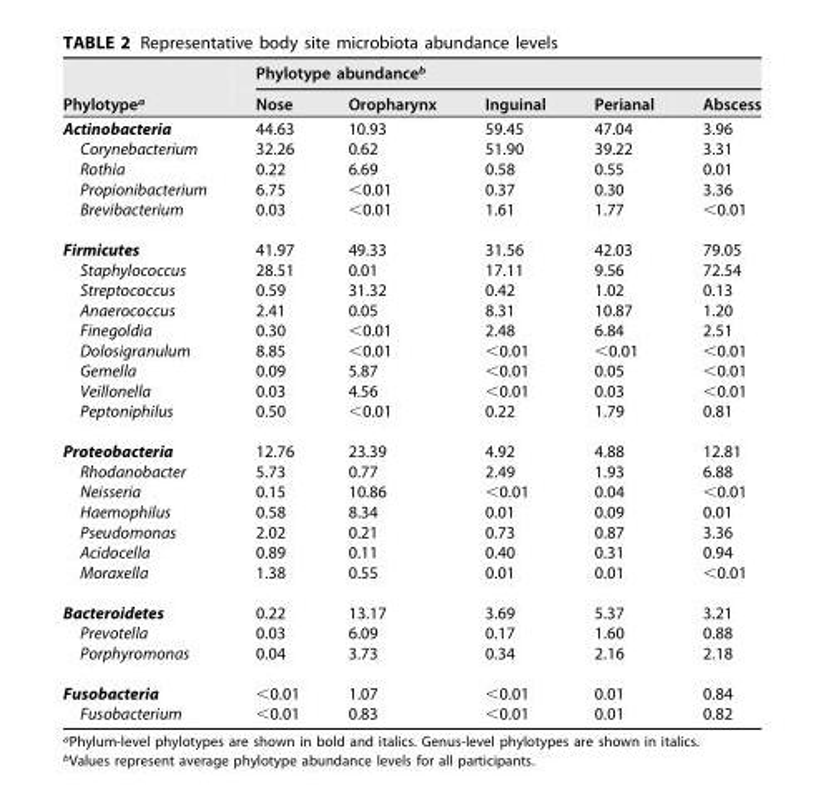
<table><thead><tr><td rowspan="2">Phylotype<sup>a</sup></td><td colspan="5">Phylotype abundance<sup>b</sup></td></tr><tr><td>Nose</td><td>Oropharynx</td><td>Inguinal</td><td>Perianal</td><td>Abscess</td></tr></thead><tbody><tr><td>Actinobacteria</td><td>44.63</td><td>10.93</td><td>59.45</td><td>47.04</td><td>3.96</td></tr><tr><td>Corynebacterium</td><td>32.26</td><td>0.62</td><td>51.90</td><td>39.22</td><td>3.31</td></tr><tr><td>Rothia</td><td>0.22</td><td>6.69</td><td>0.58</td><td>0.55</td><td>0.01</td></tr><tr><td>Propionibacterium</td><td>6.75</td><td>&lt;0.01</td><td>0.37</td><td>0.30</td><td>3.36</td></tr><tr><td>Brevibacterium</td><td>0.03</td><td>&lt;0.01</td><td>1.61</td><td>1.77</td><td>&lt;0.01</td></tr><tr><td>Firmicutes</td><td>41.97</td><td>49.33</td><td>31.56</td><td>42.03</td><td>79.05</td></tr><tr><td>Staphylococcus</td><td>28.51</td><td>0.01</td><td>17.11</td><td>9.56</td><td>72.54</td></tr><tr><td>Streptococcus</td><td>0.59</td><td>31.32</td><td>0.42</td><td>1.02</td><td>0.13</td></tr><tr><td>Anaerococcus</td><td>2.41</td><td>0.05</td><td>8.31</td><td>10.87</td><td>1.20</td></tr><tr><td>Finegoldia</td><td>0.30</td><td>&lt;0.01</td><td>2.48</td><td>6.84</td><td>2.51</td></tr><tr><td>Dolosigranulum</td><td>8.85</td><td>&lt;0.01</td><td>&lt;0.01</td><td>&lt;0.01</td><td>&lt;0.01</td></tr><tr><td>Gemella</td><td>0.09</td><td>5.87</td><td>&lt;0.01</td><td>0.05</td><td>&lt;0.01</td></tr><tr><td>Veillonella</td><td>0.03</td><td>4.56</td><td>&lt;0.01</td><td>0.03</td><td>&lt;0.01</td></tr><tr><td>Peptoniphilus</td><td>0.50</td><td>&lt;0.01</td><td>0.22</td><td>1.79</td><td>0.81</td></tr><tr><td>Proteobacteria</td><td>12.76</td><td>23.39</td><td>4.92</td><td>4.88</td><td>12.81</td></tr><tr><td>Rhodanobacter</td><td>5.73</td><td>0.77</td><td>2.49</td><td>1.93</td><td>6.88</td></tr><tr><td>Neisseria</td><td>0.15</td><td>10.86</td><td>&lt;0.01</td><td>0.04</td><td>&lt;0.01</td></tr><tr><td>Haemophilus</td><td>0.58</td><td>8.34</td><td>0.01</td><td>0.09</td><td>0.01</td></tr><tr><td>Pseudomonas</td><td>2.02</td><td>0.21</td><td>0.73</td><td>0.87</td><td>3.36</td></tr><tr><td>Acidocella</td><td>0.89</td><td>0.11</td><td>0.40</td><td>0.31</td><td>0.94</td></tr><tr><td>Moraxella</td><td>1.38</td><td>0.55</td><td>0.01</td><td>0.01</td><td>&lt;0.01</td></tr><tr><td>Bacteroidetes</td><td>0.22</td><td>13.17</td><td>3.69</td><td>5.37</td><td>3.21</td></tr><tr><td>Prevotella</td><td>0.03</td><td>6.09</td><td>0.17</td><td>1.60</td><td>0.88</td></tr><tr><td>Porphyromonas</td><td>0.04</td><td>3.73</td><td>0.34</td><td>2.16</td><td>2.18</td></tr><tr><td>Fusobacteria</td><td>&lt;0.01</td><td>1.07</td><td>&lt;0.01</td><td>0.01</td><td>0.84</td></tr><tr><td>Fusobacterium</td><td>&lt;0.01</td><td>0.83</td><td>&lt;0.01</td><td>0.01</td><td>0.82</td></tr></tbody></table>